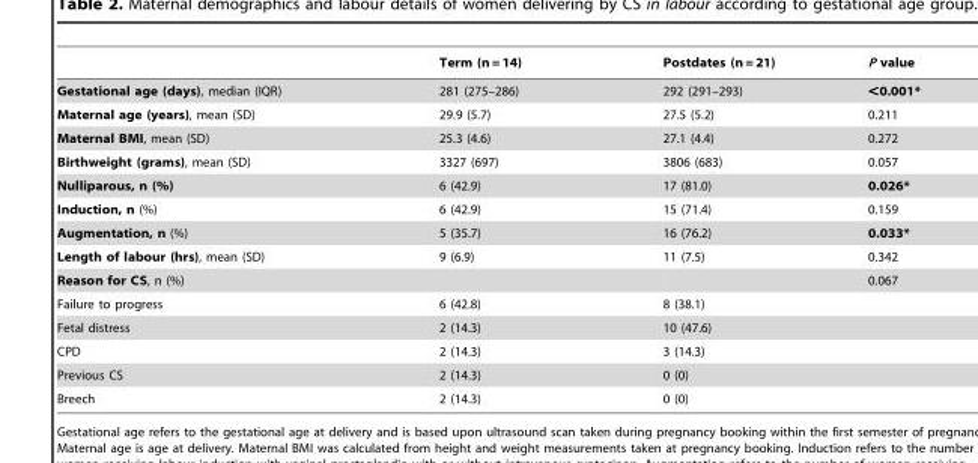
<table><thead><tr><td></td><td>Term (n = 14)</td><td>Postdates (n = 21)</td><td>P value</td></tr></thead><tbody><tr><td>Gestational age (days), median (IQR)</td><td>281 (275–286)</td><td>292 (291–293)</td><td>&lt;0.001*</td></tr><tr><td>Maternal age (years), mean (SD)</td><td>29.9 (5.7)</td><td>27.5 (5.2)</td><td>0.211</td></tr><tr><td>Maternal BMI, mean (SD)</td><td>25.3 (4.6)</td><td>27.1 (4.4)</td><td>0.272</td></tr><tr><td>Birthweight (grams), mean (SD)</td><td>3327 (697)</td><td>3806 (683)</td><td>0.057</td></tr><tr><td>Nulliparous, n (%)</td><td>6 (42.9)</td><td>17 (81.0)</td><td>0.026*</td></tr><tr><td>Induction, n (%)</td><td>6 (42.9)</td><td>15 (71.4)</td><td>0.159</td></tr><tr><td>Augmentation, n (%)</td><td>5 (35.7)</td><td>16 (76.2)</td><td>0.033*</td></tr><tr><td>Length of labour (hrs), mean (SD)</td><td>9 (6.9)</td><td>11 (7.5)</td><td>0.342</td></tr><tr><td>Reason for CS, n (%)</td><td></td><td></td><td>0.067</td></tr><tr><td>Failure to progress</td><td>6 (42.8)</td><td>8 (38.1)</td><td></td></tr><tr><td>Fetal distress</td><td>2 (14.3)</td><td>10 (47.6)</td><td></td></tr><tr><td>CPD</td><td>2 (14.3)</td><td>3 (14.3)</td><td></td></tr><tr><td>Previous CS</td><td>2 (14.3)</td><td>0 (0)</td><td></td></tr><tr><td>Breech</td><td>2 (14.3)</td><td>0 (0)</td><td></td></tr></tbody></table>